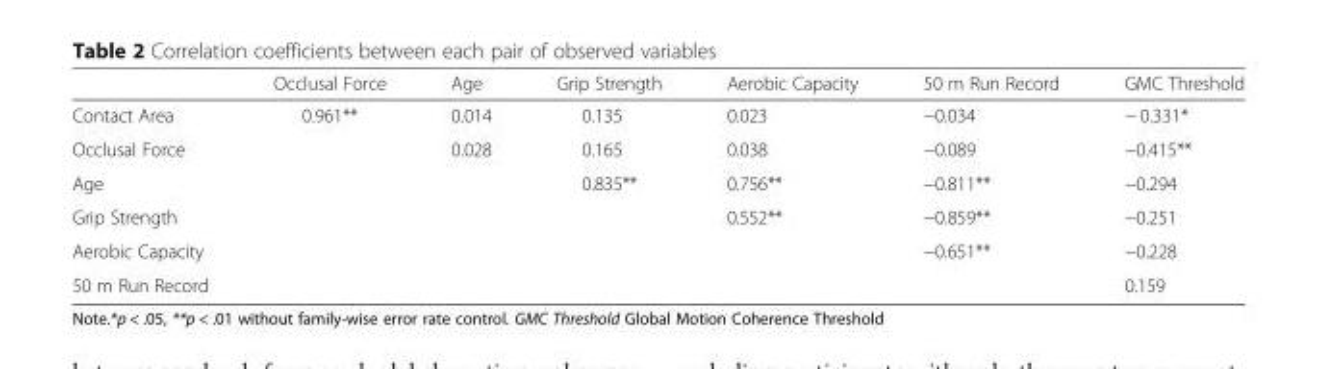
<table><thead><tr><td></td><td>Occlusal Force</td><td>Age</td><td>Grip Strength</td><td>Aerobic Capacity</td><td>50 m Run Record</td><td>GMC Threshold</td></tr></thead><tbody><tr><td>Contact Area</td><td>0.961**</td><td>0.014</td><td>0.135</td><td>0.023</td><td>−0.034</td><td>− 0.331*</td></tr><tr><td>Occlusal Force</td><td></td><td>0.028</td><td>0.165</td><td>0.038</td><td>−0.089</td><td>−0.415**</td></tr><tr><td>Age</td><td></td><td></td><td>0.835**</td><td>0.756**</td><td>−0.811**</td><td>−0.294</td></tr><tr><td>Grip Strength</td><td></td><td></td><td></td><td>0.552**</td><td>−0.859**</td><td>−0.251</td></tr><tr><td>Aerobic Capacity</td><td></td><td></td><td></td><td></td><td>−0.651**</td><td>−0.228</td></tr><tr><td>50 m Run Record</td><td></td><td></td><td></td><td></td><td></td><td>0.159</td></tr></tbody></table>